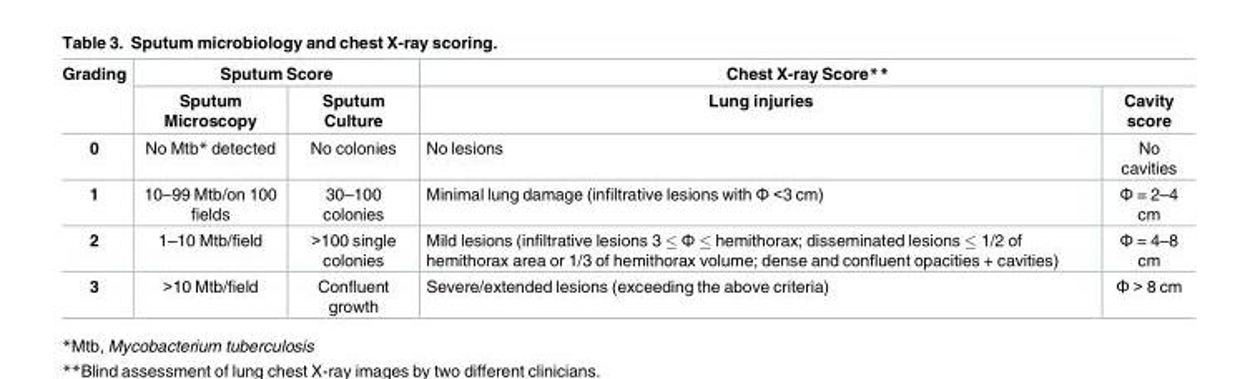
<table><thead><tr><td rowspan="2">Grading</td><td colspan="2">Sputum Score</td><td colspan="2">Chest X-ray Score**</td></tr><tr><td>Sputum Microscopy</td><td>Sputum Culture</td><td>Lung injuries</td><td>Cavity score</td></tr></thead><tbody><tr><td>0</td><td>No Mtb* detected</td><td>No colonies</td><td>No lesions</td><td>No cavities</td></tr><tr><td>1</td><td>10–99 Mtb/on 100 fields</td><td>30–100 colonies</td><td>Minimal lung damage (infiltrative lesions with Φ &lt;3 cm)</td><td>Φ = 2–4 cm</td></tr><tr><td>2</td><td>1–10 Mtb/field</td><td>&gt;100 single colonies</td><td>Mild lesions (infiltrative lesions 3 ≤ Φ ≤ hemithorax; disseminated lesions ≤ 1/2 of hemithorax area or 1/3 of hemithorax volume; dense and confluent opacities + cavities)</td><td>Φ = 4–8 cm</td></tr><tr><td>3</td><td>&gt;10 Mtb/field</td><td>Confluent growth</td><td>Severe/extended lesions (exceeding the above criteria)</td><td>Φ &gt; 8 cm</td></tr></tbody></table>